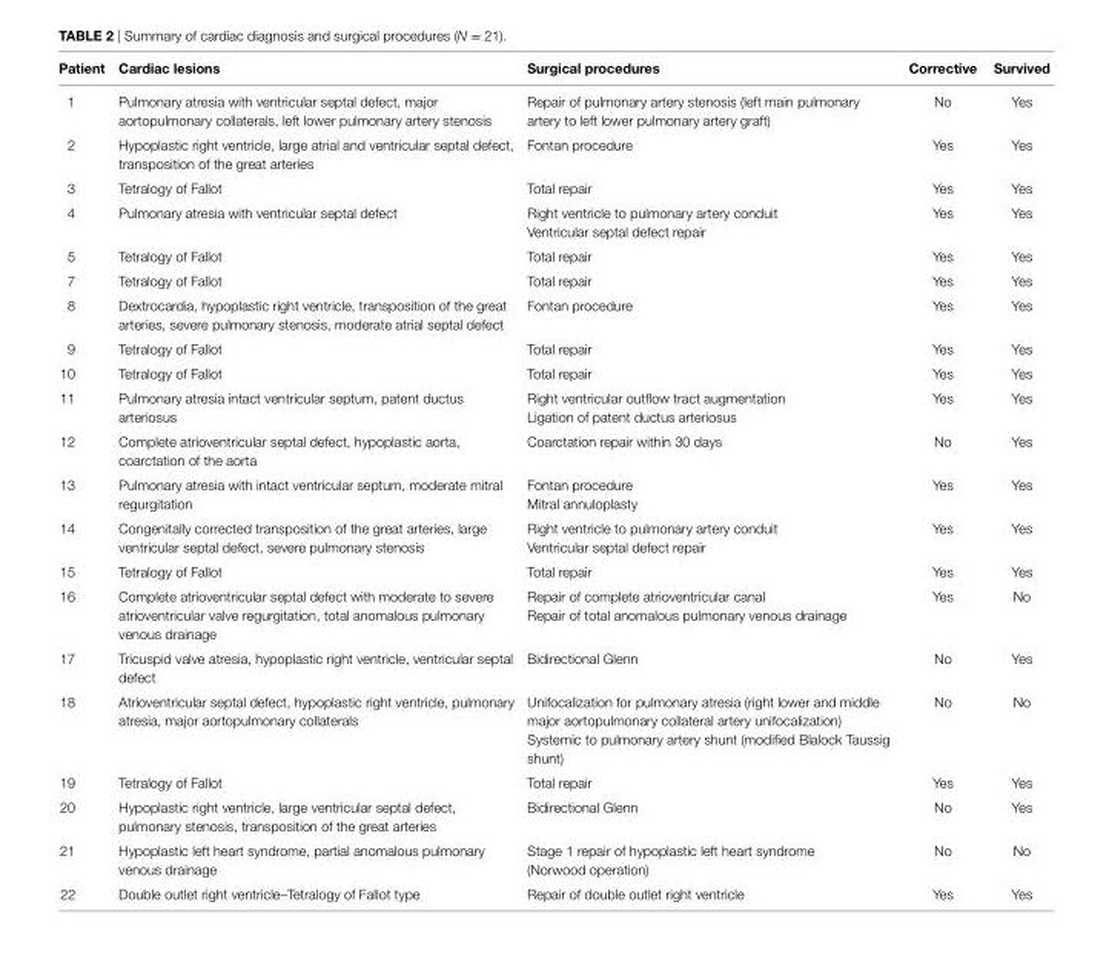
<table><thead><tr><td>Patient</td><td>cardiac lesions</td><td>surgical procedures</td><td>corrective</td><td>survived</td></tr></thead><tbody><tr><td>1</td><td>Pulmonary atresia with ventricular septal defect, major aortopulmonary collaterals, left lower pulmonary artery stenosis</td><td>Repair of pulmonary artery stenosis (left main pulmonary artery to left lower pulmonary artery graft)</td><td>No</td><td>Yes</td></tr><tr><td>2</td><td>Hypoplastic right ventricle, large atrial and ventricular septal defect, transposition of the great arteries</td><td>Fontan procedure</td><td>Yes</td><td>Yes</td></tr><tr><td>3</td><td>Tetralogy of Fallot</td><td>Total repair</td><td>Yes</td><td>Yes</td></tr><tr><td>4</td><td>Pulmonary atresia with ventricular septal defect</td><td>Right ventricle to pulmonary artery conduit Ventricular septal defect repair</td><td>Yes</td><td>Yes</td></tr><tr><td>5</td><td>Tetralogy of Fallot</td><td>Total repair</td><td>Yes</td><td>Yes</td></tr><tr><td>7</td><td>Tetralogy of Fallot</td><td>Total repair</td><td>Yes</td><td>Yes</td></tr><tr><td>8</td><td>Dextrocardia, hypoplastic right ventricle, transposition of the great arteries, severe pulmonary stenosis, moderate atrial septal defect</td><td>Fontan procedure</td><td>Yes</td><td>Yes</td></tr><tr><td>9</td><td>Tetralogy of Fallot</td><td>Total repair</td><td>Yes</td><td>Yes</td></tr><tr><td>10</td><td>Tetralogy of Fallot</td><td>Total repair</td><td>Yes</td><td>Yes</td></tr><tr><td>11</td><td>Pulmonary atresia intact ventricular septum, patent ductus arteriosus</td><td>Right ventricular outflow tract augmentation Ligation of patent ductus arteriosus</td><td>Yes</td><td>Yes</td></tr><tr><td>12</td><td>Complete atrioventricular septal defect, hypoplastic aorta, coarctation of the aorta</td><td>Coarctation repair within 30 days</td><td>No</td><td>Yes</td></tr><tr><td>13</td><td>Pulmonary atresia with intact ventricular septum, moderate mitral regurgitation</td><td>Fontan procedure Mitral annuloplasty</td><td>Yes</td><td>Yes</td></tr><tr><td>14</td><td>Congenitally corrected transposition of the great arteries, large ventricular septal defect, severe pulmonary stenosis</td><td>Right ventricle to pulmonary artery conduit Ventricular septal defect repair</td><td>Yes</td><td>Yes</td></tr><tr><td>15</td><td>Tetralogy of Fallot</td><td>Total repair</td><td>Yes</td><td>Yes</td></tr><tr><td>16</td><td>Complete atrioventricular septal defect with moderate to severe atrioventricular valve regurgitation, total anomalous pulmonary venous drainage</td><td>Repair of complete atrioventricular canal Repair of total anomalous pulmonary venous drainage</td><td>Yes</td><td>No</td></tr><tr><td>17</td><td>Tricuspid valve atresia, hypoplastic right ventricle, ventricular septal defect</td><td>Bidirectional Glenn</td><td>No</td><td>Yes</td></tr><tr><td>18</td><td>Atrioventricular septal defect, hypoplastic right ventricle, pulmonary atresia, major aortopulmonary collaterals</td><td>Unifocalization for pulmonary atresia (right lower and middle major aortopulmonary collateral artery unifocalization) Systemic to pulmonary artery shunt (modified Blalock Taussig shunt)</td><td>No</td><td>No</td></tr><tr><td>19</td><td>Tetralogy of Fallot</td><td>Total repair</td><td>Yes</td><td>Yes</td></tr><tr><td>20</td><td>Hypoplastic right ventricle, large ventricular septal defect, pulmonary stenosis, transposition of the great arteries</td><td>Bidirectional Glenn</td><td>No</td><td>Yes</td></tr><tr><td>21</td><td>Hypoplastic left heart syndrome, partial anomalous pulmonary venous drainage</td><td>Stage 1 repair of hypoplastic left heart syndrome (Norwood operation)</td><td>No</td><td>No</td></tr><tr><td>22</td><td>Double outlet right ventricle–Tetralogy of Fallot type</td><td>Repair of double outlet right ventricle</td><td>Yes</td><td>Yes</td></tr></tbody></table>